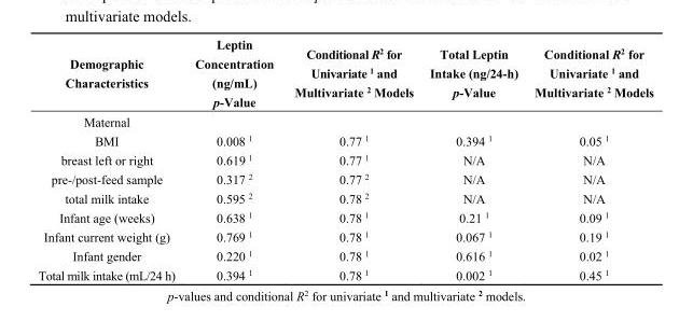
<table><thead><tr><td>Demographic Characteristics</td><td>Leptin Concentration (ng/mL) p-Value</td><td>Conditional R<sup>2</sup> for Univariate <sup>1</sup> and Multivariate <sup>2</sup> Models</td><td>Total Leptin Intake (ng/24-h) p-Value</td><td>Conditional R<sup>2</sup> for Univariate <sup>1</sup> and Multivariate <sup>2</sup> Models</td></tr></thead><tbody><tr><td colspan="5">Maternal</td></tr><tr><td>BMI</td><td>0.008 <sup>1</sup></td><td>0.77 <sup>1</sup></td><td>0.394 <sup>1</sup></td><td>0.05 <sup>1</sup></td></tr><tr><td>breast left or right</td><td>0.619 <sup>1</sup></td><td>0.77 <sup>1</sup></td><td>N/A</td><td>N/A</td></tr><tr><td>pre-/post-feed sample</td><td>0.317 <sup>2</sup></td><td>0.77 <sup>2</sup></td><td>N/A</td><td>N/A</td></tr><tr><td>total milk intake</td><td>0.595 <sup>2</sup></td><td>0.78 <sup>2</sup></td><td>N/A</td><td>N/A</td></tr><tr><td>Infant age (weeks)</td><td>0.638 <sup>1</sup></td><td>0.78 <sup>1</sup></td><td>0.21 <sup>1</sup></td><td>0.09 <sup>1</sup></td></tr><tr><td>Infant current weight (g)</td><td>0.769 <sup>1</sup></td><td>0.78 <sup>1</sup></td><td>0.067 <sup>1</sup></td><td>0.19 <sup>1</sup></td></tr><tr><td>Infant gender</td><td>0.220 <sup>1</sup></td><td>0.78 <sup>1</sup></td><td>0.616 <sup>1</sup></td><td>0.02 <sup>1</sup></td></tr><tr><td>Total milk intake (mL/24 h)</td><td>0.394 <sup>1</sup></td><td>0.78 <sup>1</sup></td><td>0.002 <sup>1</sup></td><td>0.45 <sup>1</sup></td></tr></tbody></table>